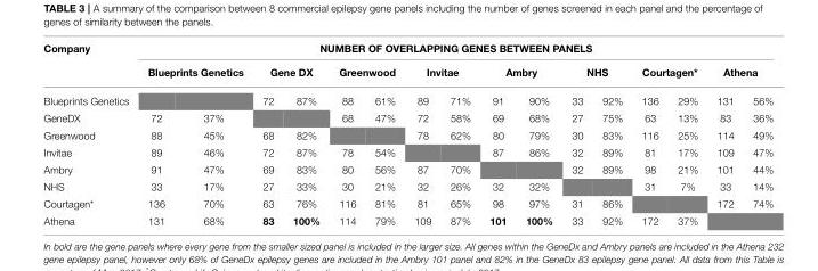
<table><thead><tr><td rowspan="3">Company Blueprints Genetics</td><td colspan="16">NUMBER OF OVERLAPPING GENES BETWEEN PANELS</td></tr><tr><td colspan="2">Blueprints Genetics</td><td colspan="2">Gene DX</td><td colspan="2">Greenwood</td><td colspan="2">Invitae</td><td colspan="2">Ambry</td><td colspan="2">NHS</td><td colspan="2">Courtagen*</td><td colspan="2">Athena</td></tr><tr><td></td><td></td><td>72</td><td>87%</td><td>88</td><td>61%</td><td>89</td><td>71%</td><td>91</td><td>90%</td><td>33</td><td>92%</td><td>136</td><td>29%</td><td>131</td><td>56%</td></tr></thead><tbody><tr><td>GeneDX</td><td>72</td><td>37%</td><td></td><td></td><td>68</td><td>47%</td><td>72</td><td>58%</td><td>69</td><td>68%</td><td>27</td><td>75%</td><td>63</td><td>13%</td><td>83</td><td>36%</td></tr><tr><td>Greenwood</td><td>88</td><td>45%</td><td>68</td><td>82%</td><td></td><td></td><td>78</td><td>62%</td><td>80</td><td>79%</td><td>30</td><td>83%</td><td>116</td><td>25%</td><td>114</td><td>49%</td></tr><tr><td>Invitae</td><td>89</td><td>46%</td><td>72</td><td>87%</td><td>78</td><td>54%</td><td></td><td></td><td>87</td><td>86%</td><td>32</td><td>89%</td><td>81</td><td>17%</td><td>109</td><td>47%</td></tr><tr><td>Ambry</td><td>91</td><td>47%</td><td>69</td><td>83%</td><td>80</td><td>56%</td><td>87</td><td>70%</td><td></td><td></td><td>32</td><td>89%</td><td>98</td><td>21%</td><td>101</td><td>44%</td></tr><tr><td>NHS</td><td>33</td><td>17%</td><td>27</td><td>33%</td><td>30</td><td>21%</td><td>32</td><td>26%</td><td>32</td><td>32%</td><td></td><td></td><td>31</td><td>7%</td><td>33</td><td>14%</td></tr><tr><td>Courtagen*</td><td>136</td><td>70%</td><td>63</td><td>76%</td><td>116</td><td>81%</td><td>81</td><td>65%</td><td>98</td><td>97%</td><td>31</td><td>86%</td><td></td><td></td><td>172</td><td>74%</td></tr><tr><td>Athena</td><td>131</td><td>68%</td><td>83</td><td>100%</td><td>114</td><td>79%</td><td>109</td><td>87%</td><td>101</td><td>100%</td><td>33</td><td>92%</td><td>172</td><td>37%</td><td></td><td></td></tr></tbody></table>